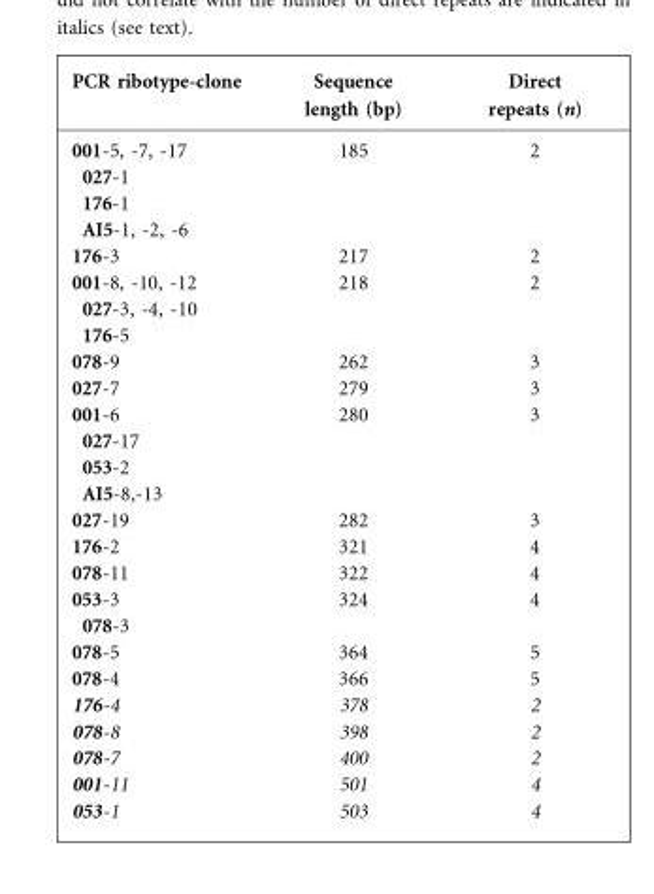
<table><thead><tr><td>PCR ribotype-clone</td><td>Sequence length (bp)</td><td>Direct repeats (n)</td></tr></thead><tbody><tr><td>001-5, -7, -17 027-1 176-1 AI5-1, -2, -6</td><td>185</td><td>2</td></tr><tr><td>176-3</td><td>217</td><td>2</td></tr><tr><td>001-8, -10, -12 027-3, -4, -10 176-5</td><td>218</td><td>2</td></tr><tr><td>078-9</td><td>262</td><td>3</td></tr><tr><td>027-7</td><td>279</td><td>3</td></tr><tr><td>001-6 027-17 053-2 AI5-8,-13</td><td>280</td><td>3</td></tr><tr><td>027-19</td><td>282</td><td>3</td></tr><tr><td>176-2</td><td>321</td><td>4</td></tr><tr><td>078-11</td><td>322</td><td>4</td></tr><tr><td>053-3 078-3</td><td>324</td><td>4</td></tr><tr><td>078-5</td><td>364</td><td>5</td></tr><tr><td>078-4</td><td>366</td><td>5</td></tr><tr><td>176-4</td><td>378</td><td>2</td></tr><tr><td>078-8</td><td>398</td><td>2</td></tr><tr><td>078-7</td><td>400</td><td>2</td></tr><tr><td>001-11</td><td>501</td><td>4</td></tr><tr><td>053-1</td><td>503</td><td>4</td></tr></tbody></table>